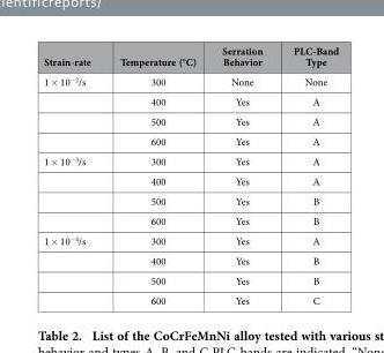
<table><thead><tr><td>Strain-rate</td><td>Temperature (°C)</td><td>Serration Behavior</td><td>PLC-Band Type</td></tr></thead><tbody><tr><td rowspan="4">1 × 10<sup>−2</sup>/s</td><td>300</td><td>None</td><td>None</td></tr><tr><td>400</td><td>Yes</td><td>A</td></tr><tr><td>500</td><td>Yes</td><td>A</td></tr><tr><td>600</td><td>Yes</td><td>A</td></tr><tr><td rowspan="4">1 × 10<sup>−3</sup>/s</td><td>300</td><td>Yes</td><td>A</td></tr><tr><td>400</td><td>Yes</td><td>A</td></tr><tr><td>500</td><td>Yes</td><td>B</td></tr><tr><td>600</td><td>Yes</td><td>B</td></tr><tr><td rowspan="4">1 × 10<sup>−4</sup>/s</td><td>300</td><td>Yes</td><td>A</td></tr><tr><td>400</td><td>Yes</td><td>B</td></tr><tr><td>500</td><td>Yes</td><td>B</td></tr><tr><td>600</td><td>Yes</td><td>C</td></tr></tbody></table>